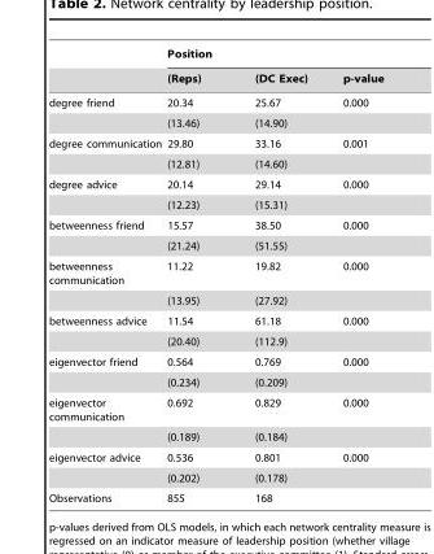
<table><thead><tr><td rowspan="2"></td><td colspan="3">Position</td></tr><tr><td>(Reps)</td><td>(DC Exec)</td><td>p-value</td></tr></thead><tbody><tr><td rowspan="2">degree friend</td><td>20.34</td><td>25.67</td><td>0.000</td></tr><tr><td>(13.46)</td><td>(14.90)</td><td></td></tr><tr><td rowspan="2">degree communication</td><td>29.80</td><td>33.16</td><td>0.001</td></tr><tr><td>(12.81)</td><td>(14.60)</td><td></td></tr><tr><td rowspan="2">degree advice</td><td>20.14</td><td>29.14</td><td>0.000</td></tr><tr><td>(12.23)</td><td>(15.31)</td><td></td></tr><tr><td rowspan="2">betweenness friend</td><td>15.57</td><td>38.50</td><td>0.000</td></tr><tr><td>(21.24)</td><td>(51.55)</td><td></td></tr><tr><td rowspan="2">betweenness communication</td><td>11.22</td><td>19.82</td><td>0.000</td></tr><tr><td>(13.95)</td><td>(27.92)</td><td></td></tr><tr><td rowspan="2">betweenness advice</td><td>11.54</td><td>61.18</td><td>0.000</td></tr><tr><td>(20.40)</td><td>(112.9)</td><td></td></tr><tr><td rowspan="2">eigenvector friend</td><td>0.564</td><td>0.769</td><td>0.000</td></tr><tr><td>(0.234)</td><td>(0.209)</td><td></td></tr><tr><td rowspan="2">eigenvector communication</td><td>0.692</td><td>0.829</td><td>0.000</td></tr><tr><td>(0.189)</td><td>(0.184)</td><td></td></tr><tr><td rowspan="2">eigenvector advice</td><td>0.536</td><td>0.801</td><td>0.000</td></tr><tr><td>(0.202)</td><td>(0.178)</td><td></td></tr><tr><td>Observations</td><td>855</td><td>168</td><td></td></tr></tbody></table>